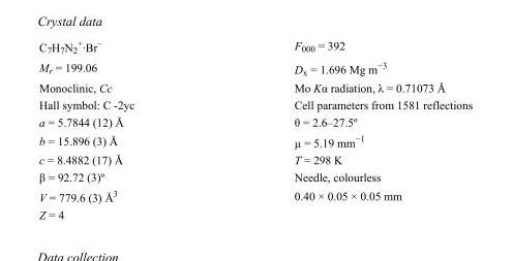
<table><tbody><tr><td>C<sub>7</sub>H<sub>7</sub>N<sub>2</sub> <sup>+</sup>·Br<sup>–</sup></td><td>F000 = 392</td></tr><tr><td>M<sub>r</sub> = 199.06</td><td>D<sub>x</sub> = 1.696 Mg m<sup>−3</sup></td></tr><tr><td>Monoclinic, Cc</td><td>Mo Kα radiation, λ = 0.71073 Å</td></tr><tr><td>Hall symbol: C -2yc</td><td>Cell parameters from 1581 reflections</td></tr><tr><td>a = 5.7844 (12) Å</td><td>θ = 2.6–27.5º</td></tr><tr><td>b = 15.896 (3) Å</td><td>µ = 5.19 mm<sup>−1</sup></td></tr><tr><td>c = 8.4882 (17) Å</td><td>T = 298 K</td></tr><tr><td>β = 92.72 (3)º</td><td>Needle, colourless</td></tr><tr><td>V = 779.6 (3) Å<sup>3</sup></td><td>0.40 × 0.05 × 0.05 mm</td></tr><tr><td>Z = 4</td><td></td></tr></tbody></table>